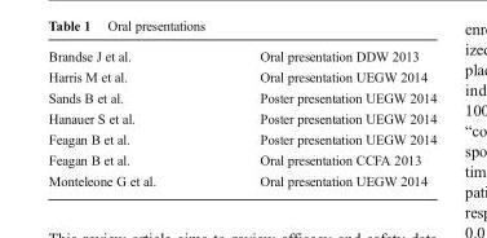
<table><tbody><tr><td>Brandse J et al.</td><td>Oral presentation DDW 2013</td></tr><tr><td>Harris M et al.</td><td>Oral presentation UEGW 2014</td></tr><tr><td>Sands B et al.</td><td>Poster presentation UEGW 2014</td></tr><tr><td>Hanauer S et al.</td><td>Poster presentation UEGW 2014</td></tr><tr><td>Feagan B et al.</td><td>Poster presentation UEGW 2014</td></tr><tr><td>Feagan B et al.</td><td>Oral presentation CCFA 2013</td></tr><tr><td>Monteleone G et al.</td><td>Oral presentation UEGW 2014</td></tr></tbody></table>